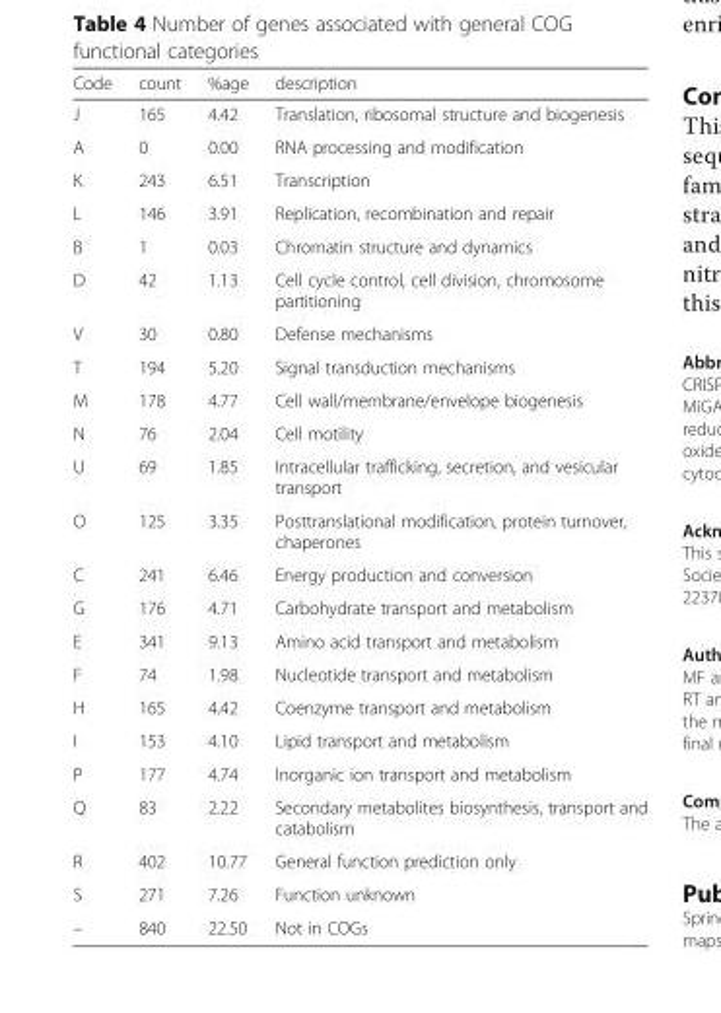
<table><thead><tr><td>Code</td><td>count</td><td>%age</td><td>description</td></tr></thead><tbody><tr><td>J</td><td>165</td><td>4.42</td><td>Translation, ribosomal structure and biogenesis</td></tr><tr><td>A</td><td>0</td><td>0.00</td><td>RNA processing and modification</td></tr><tr><td>K</td><td>243</td><td>6.51</td><td>Transcription</td></tr><tr><td>L</td><td>146</td><td>3.91</td><td>Replication, recombination and repair</td></tr><tr><td>B</td><td>1</td><td>0.03</td><td>Chromatin structure and dynamics</td></tr><tr><td>D</td><td>42</td><td>1.13</td><td>Cell cycle control, cell division, chromosome partitioning</td></tr><tr><td>V</td><td>30</td><td>0.80</td><td>Defense mechanisms</td></tr><tr><td>T</td><td>194</td><td>5.20</td><td>Signal transduction mechanisms</td></tr><tr><td>M</td><td>178</td><td>4.77</td><td>Cell wall/membrane/envelope biogenesis</td></tr><tr><td>N</td><td>76</td><td>2.04</td><td>Cell motility</td></tr><tr><td>U</td><td>69</td><td>1.85</td><td>Intracellular trafficking, secretion, and vesicular transport</td></tr><tr><td>O</td><td>125</td><td>3.35</td><td>Posttranslational modification, protein turnover, chaperones</td></tr><tr><td>C</td><td>241</td><td>6.46</td><td>Energy production and conversion</td></tr><tr><td>G</td><td>176</td><td>4.71</td><td>Carbohydrate transport and metabolism</td></tr><tr><td>E</td><td>341</td><td>9.13</td><td>Amino acid transport and metabolism</td></tr><tr><td>F</td><td>74</td><td>1.98</td><td>Nucleotide transport and metabolism</td></tr><tr><td>H</td><td>165</td><td>4.42</td><td>Coenzyme transport and metabolism</td></tr><tr><td>I</td><td>153</td><td>4.10</td><td>Lipid transport and metabolism</td></tr><tr><td>P</td><td>177</td><td>4.74</td><td>Inorganic ion transport and metabolism</td></tr><tr><td>Q</td><td>83</td><td>2.22</td><td>Secondary metabolites biosynthesis, transport and catabolism</td></tr><tr><td>R</td><td>402</td><td>10.77</td><td>General function prediction only</td></tr><tr><td>S</td><td>271</td><td>7.26</td><td>Function unknown</td></tr><tr><td>–</td><td>840</td><td>22.50</td><td>Not in COGs</td></tr></tbody></table>